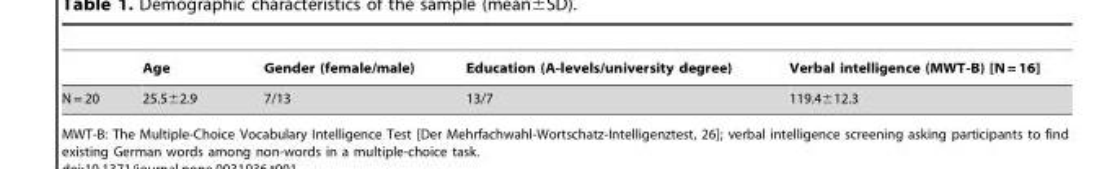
<table><thead><tr><td></td><td>Age</td><td>Gender (female/male)</td><td>Education (A-levels/university degree)</td><td>Verbal intelligence (MWT-B) [N = 16]</td></tr></thead><tbody><tr><td>N = 20</td><td>25.5±2.9</td><td>7/13</td><td>13/7</td><td>119.4±12.3</td></tr></tbody></table>